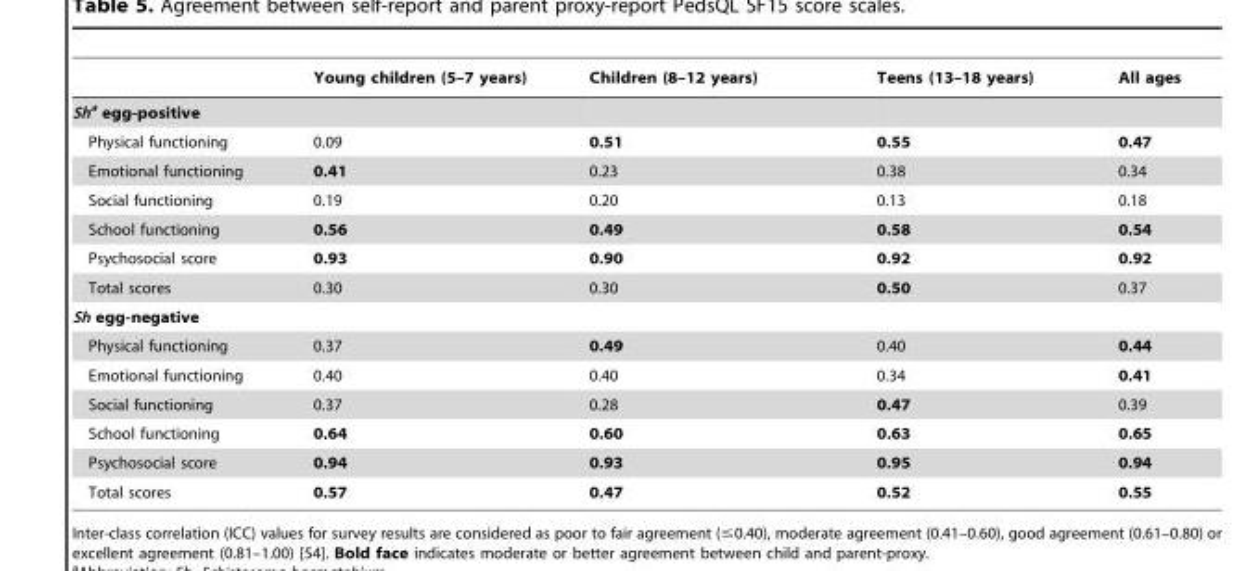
<table><thead><tr><td></td><td>Young children (5–7 years)</td><td>Children (8–12 years)</td><td>Teens (13–18 years)</td><td>All ages</td></tr></thead><tbody><tr><td colspan="5">Sha egg-positive</td></tr><tr><td>Physical functioning</td><td>0.09</td><td>0.51</td><td>0.55</td><td>0.47</td></tr><tr><td>Emotional functioning</td><td>0.41</td><td>0.23</td><td>0.38</td><td>0.34</td></tr><tr><td>Social functioning</td><td>0.19</td><td>0.20</td><td>0.13</td><td>0.18</td></tr><tr><td>School functioning</td><td>0.56</td><td>0.49</td><td>0.58</td><td>0.54</td></tr><tr><td>Psychosocial score</td><td>0.93</td><td>0.90</td><td>0.92</td><td>0.92</td></tr><tr><td>Total scores</td><td>0.30</td><td>0.30</td><td>0.50</td><td>0.37</td></tr><tr><td colspan="5">Sh egg-negative</td></tr><tr><td>Physical functioning</td><td>0.37</td><td>0.49</td><td>0.40</td><td>0.44</td></tr><tr><td>Emotional functioning</td><td>0.40</td><td>0.40</td><td>0.34</td><td>0.41</td></tr><tr><td>Social functioning</td><td>0.37</td><td>0.28</td><td>0.47</td><td>0.39</td></tr><tr><td>School functioning</td><td>0.64</td><td>0.60</td><td>0.63</td><td>0.65</td></tr><tr><td>Psychosocial score</td><td>0.94</td><td>0.93</td><td>0.95</td><td>0.94</td></tr><tr><td>Total scores</td><td>0.57</td><td>0.47</td><td>0.52</td><td>0.55</td></tr></tbody></table>